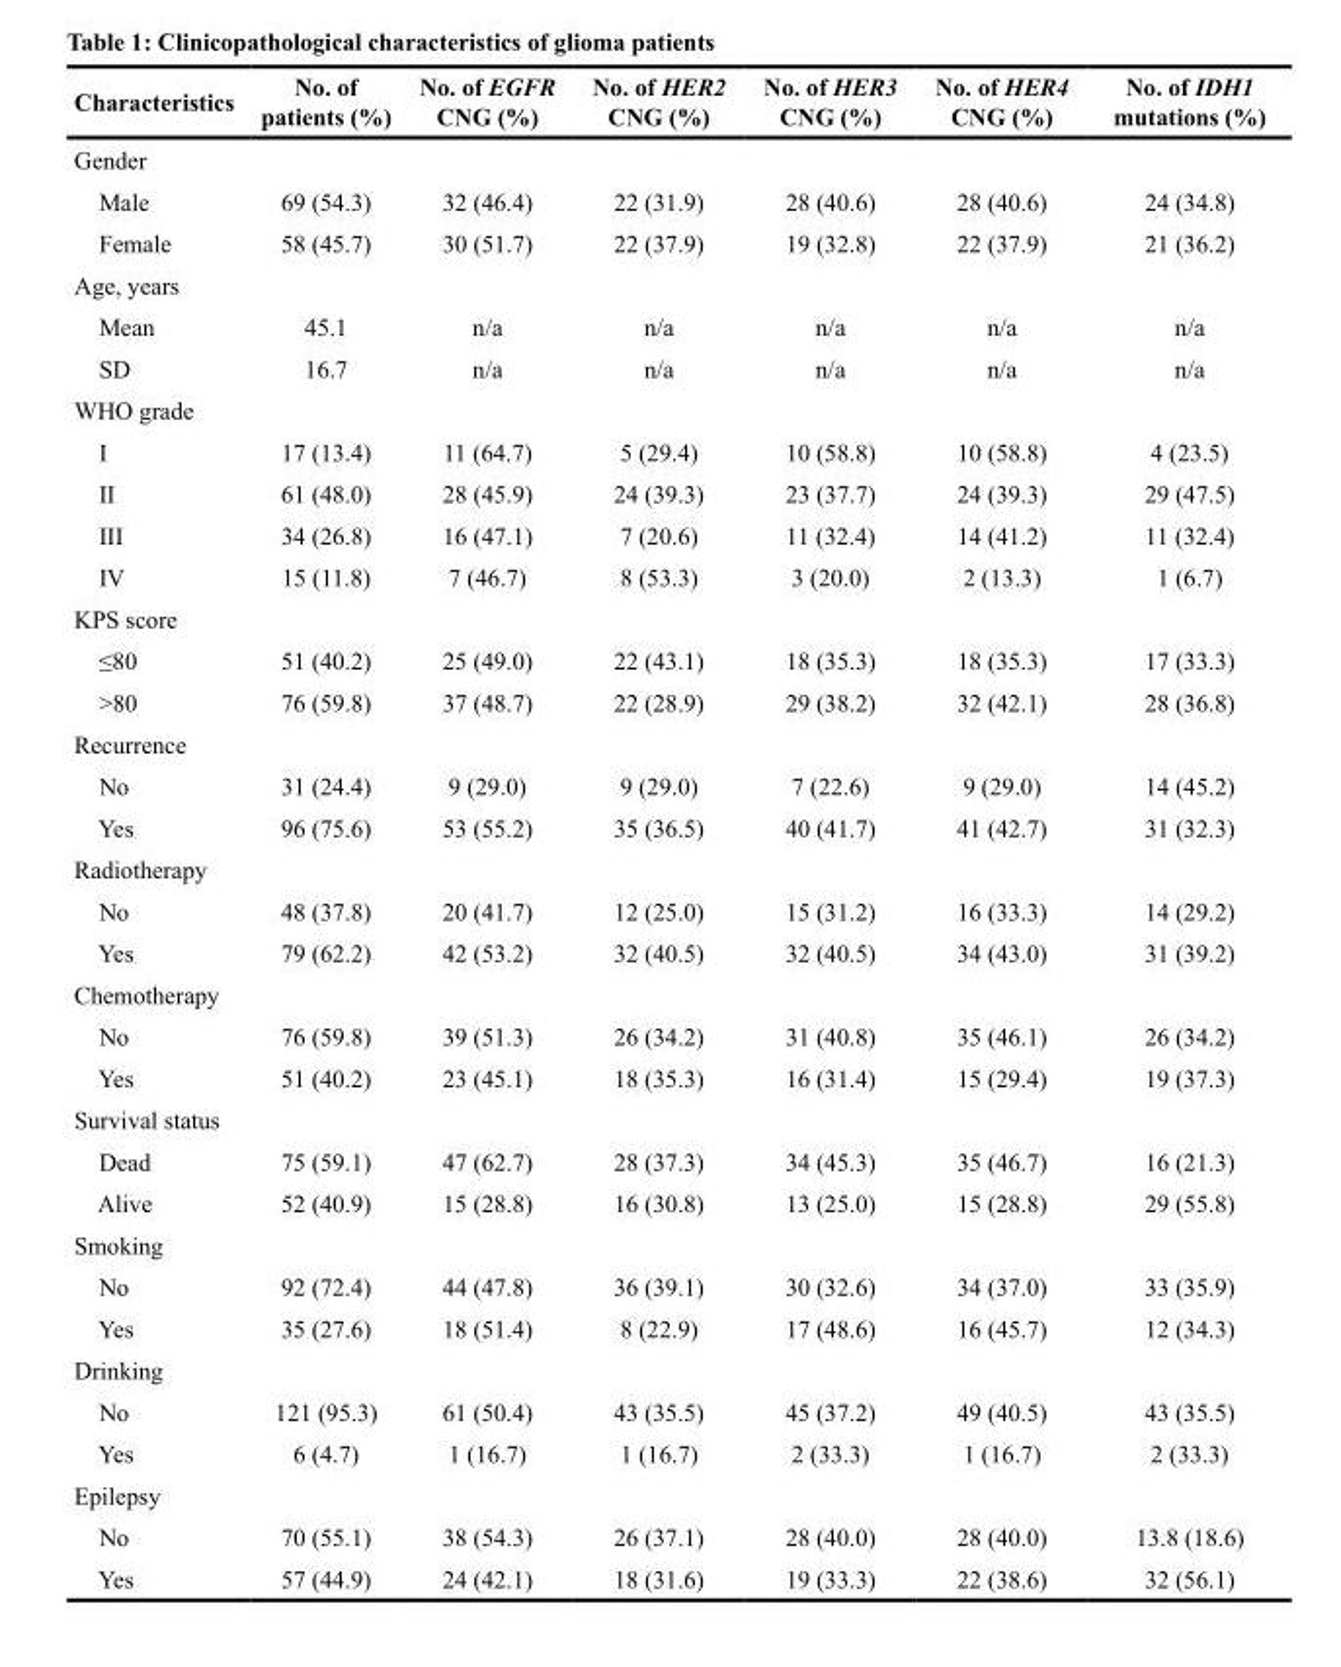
<table><thead><tr><td>Characteristics</td><td>No. of patients (%)</td><td>No. of EGFR CNG (%)</td><td>No. of HER2 CNG (%)</td><td>No. of HER3 CNG (%)</td><td>No. of HER4 CNG (%)</td><td>No. of IDH1 mutations (%)</td></tr></thead><tbody><tr><td colspan="7">Gender</td></tr><tr><td>Male</td><td>69 (54.3)</td><td>32 (46.4)</td><td>22 (31.9)</td><td>28 (40.6)</td><td>28 (40.6)</td><td>24 (34.8)</td></tr><tr><td>Female</td><td>58 (45.7)</td><td>30 (51.7)</td><td>22 (37.9)</td><td>19 (32.8)</td><td>22 (37.9)</td><td>21 (36.2)</td></tr><tr><td colspan="7">Age, years</td></tr><tr><td>Mean</td><td>45.1</td><td>n/a</td><td>n/a</td><td>n/a</td><td>n/a</td><td>n/a</td></tr><tr><td>SD</td><td>16.7</td><td>n/a</td><td>n/a</td><td>n/a</td><td>n/a</td><td>n/a</td></tr><tr><td colspan="7">WHO grade</td></tr><tr><td>I</td><td>17 (13.4)</td><td>11 (64.7)</td><td>5 (29.4)</td><td>10 (58.8)</td><td>10 (58.8)</td><td>4 (23.5)</td></tr><tr><td>II</td><td>61 (48.0)</td><td>28 (45.9)</td><td>24 (39.3)</td><td>23 (37.7)</td><td>24 (39.3)</td><td>29 (47.5)</td></tr><tr><td>III</td><td>34 (26.8)</td><td>16 (47.1)</td><td>7 (20.6)</td><td>11 (32.4)</td><td>14 (41.2)</td><td>11 (32.4)</td></tr><tr><td>IV</td><td>15 (11.8)</td><td>7 (46.7)</td><td>8 (53.3)</td><td>3 (20.0)</td><td>2 (13.3)</td><td>1 (6.7)</td></tr><tr><td colspan="7">KPS score</td></tr><tr><td>≤80</td><td>51 (40.2)</td><td>25 (49.0)</td><td>22 (43.1)</td><td>18 (35.3)</td><td>18 (35.3)</td><td>17 (33.3)</td></tr><tr><td>&gt;80</td><td>76 (59.8)</td><td>37 (48.7)</td><td>22 (28.9)</td><td>29 (38.2)</td><td>32 (42.1)</td><td>28 (36.8)</td></tr><tr><td colspan="7">Recurrence</td></tr><tr><td>No</td><td>31 (24.4)</td><td>9 (29.0)</td><td>9 (29.0)</td><td>7 (22.6)</td><td>9 (29.0)</td><td>14 (45.2)</td></tr><tr><td>Yes</td><td>96 (75.6)</td><td>53 (55.2)</td><td>35 (36.5)</td><td>40 (41.7)</td><td>41 (42.7)</td><td>31 (32.3)</td></tr><tr><td colspan="7">Radiotherapy</td></tr><tr><td>No</td><td>48 (37.8)</td><td>20 (41.7)</td><td>12 (25.0)</td><td>15 (31.2)</td><td>16 (33.3)</td><td>14 (29.2)</td></tr><tr><td>Yes</td><td>79 (62.2)</td><td>42 (53.2)</td><td>32 (40.5)</td><td>32 (40.5)</td><td>34 (43.0)</td><td>31 (39.2)</td></tr><tr><td colspan="7">Chemotherapy</td></tr><tr><td>No</td><td>76 (59.8)</td><td>39 (51.3)</td><td>26 (34.2)</td><td>31 (40.8)</td><td>35 (46.1)</td><td>26 (34.2)</td></tr><tr><td>Yes</td><td>51 (40.2)</td><td>23 (45.1)</td><td>18 (35.3)</td><td>16 (31.4)</td><td>15 (29.4)</td><td>19 (37.3)</td></tr><tr><td colspan="7">Survival status</td></tr><tr><td>Dead</td><td>75 (59.1)</td><td>47 (62.7)</td><td>28 (37.3)</td><td>34 (45.3)</td><td>35 (46.7)</td><td>16 (21.3)</td></tr><tr><td>Alive</td><td>52 (40.9)</td><td>15 (28.8)</td><td>16 (30.8)</td><td>13 (25.0)</td><td>15 (28.8)</td><td>29 (55.8)</td></tr><tr><td colspan="7">Smoking</td></tr><tr><td>No</td><td>92 (72.4)</td><td>44 (47.8)</td><td>36 (39.1)</td><td>30 (32.6)</td><td>34 (37.0)</td><td>33 (35.9)</td></tr><tr><td>Yes</td><td>35 (27.6)</td><td>18 (51.4)</td><td>8 (22.9)</td><td>17 (48.6)</td><td>16 (45.7)</td><td>12 (34.3)</td></tr><tr><td colspan="7">Drinking</td></tr><tr><td>No</td><td>121 (95.3)</td><td>61 (50.4)</td><td>43 (35.5)</td><td>45 (37.2)</td><td>49 (40.5)</td><td>43 (35.5)</td></tr><tr><td>Yes</td><td>6 (4.7)</td><td>1 (16.7)</td><td>1 (16.7)</td><td>2 (33.3)</td><td>1 (16.7)</td><td>2 (33.3)</td></tr><tr><td colspan="7">Epilepsy</td></tr><tr><td>No</td><td>70 (55.1)</td><td>38 (54.3)</td><td>26 (37.1)</td><td>28 (40.0)</td><td>28 (40.0)</td><td>13.8 (18.6)</td></tr><tr><td>Yes</td><td>57 (44.9)</td><td>24 (42.1)</td><td>18 (31.6)</td><td>19 (33.3)</td><td>22 (38.6)</td><td>32 (56.1)</td></tr></tbody></table>